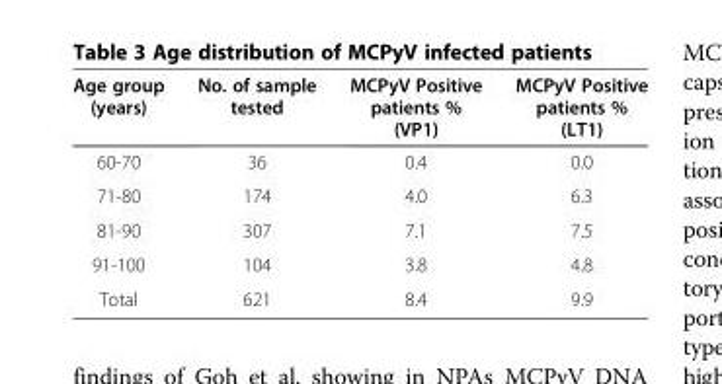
<table><thead><tr><td>Age group (years)</td><td>No. of sample tested</td><td>MCPyV Positive patients % (VP1)</td><td>MCPyV Positive patients % (LT1)</td></tr></thead><tbody><tr><td>60-70</td><td>36</td><td>0.4</td><td>0.0</td></tr><tr><td>71-80</td><td>174</td><td>4.0</td><td>6.3</td></tr><tr><td>81-90</td><td>307</td><td>7.1</td><td>7.5</td></tr><tr><td>91-100</td><td>104</td><td>3.8</td><td>4.8</td></tr><tr><td>Total</td><td>621</td><td>8.4</td><td>9.9</td></tr></tbody></table>